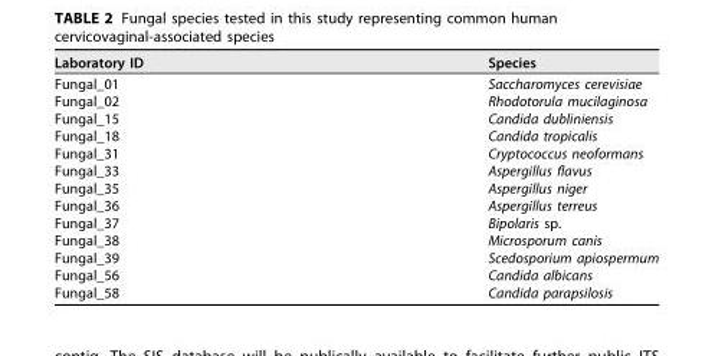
<table><thead><tr><td>Laboratory ID</td><td>Species</td></tr></thead><tbody><tr><td>Fungal_01</td><td>Saccharomyces cerevisiae</td></tr><tr><td>Fungal_02</td><td>Rhodotorula mucilaginosa</td></tr><tr><td>Fungal_15</td><td>Candida dubliniensis</td></tr><tr><td>Fungal_18</td><td>Candida tropicalis</td></tr><tr><td>Fungal_31</td><td>Cryptococcus neoformans</td></tr><tr><td>Fungal_33</td><td>Aspergillus flavus</td></tr><tr><td>Fungal_35</td><td>Aspergillus niger</td></tr><tr><td>Fungal_36</td><td>Aspergillus terreus</td></tr><tr><td>Fungal_37</td><td>Bipolaris sp.</td></tr><tr><td>Fungal_38</td><td>Microsporum canis</td></tr><tr><td>Fungal_39</td><td>Scedosporium apiospermum</td></tr><tr><td>Fungal_56</td><td>Candida albicans</td></tr><tr><td>Fungal_58</td><td>Candida parapsilosis</td></tr></tbody></table>